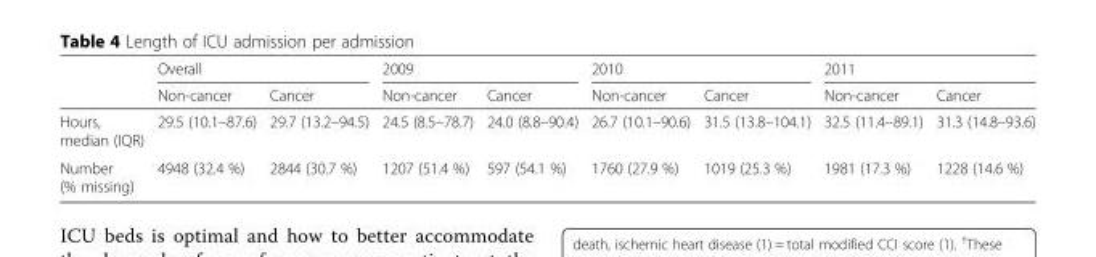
<table><thead><tr><td rowspan="2"></td><td colspan="2">Overall</td><td colspan="2">2009</td><td colspan="2">2010</td><td colspan="2">2011</td></tr><tr><td>Non-cancer</td><td>Cancer</td><td>Non-cancer</td><td>Cancer</td><td>Non-cancer</td><td>Cancer</td><td>Non-cancer</td><td>Cancer</td></tr></thead><tbody><tr><td>Hours, median (IQR)</td><td>29.5 (10.1–87.6)</td><td>29.7 (13.2–94.5)</td><td>24.5 (8.5–78.7)</td><td>24.0 (8.8–90.4)</td><td>26.7 (10.1–90.6)</td><td>31.5 (13.8–104.1)</td><td>32.5 (11.4–89.1)</td><td>31.3 (14.8–93.6)</td></tr><tr><td>Number (% missing)</td><td>4948 (32.4 %)</td><td>2844 (30.7 %)</td><td>1207 (51.4 %)</td><td>597 (54.1 %)</td><td>1760 (27.9 %)</td><td>1019 (25.3 %)</td><td>1981 (17.3 %)</td><td>1228 (14.6 %)</td></tr></tbody></table>